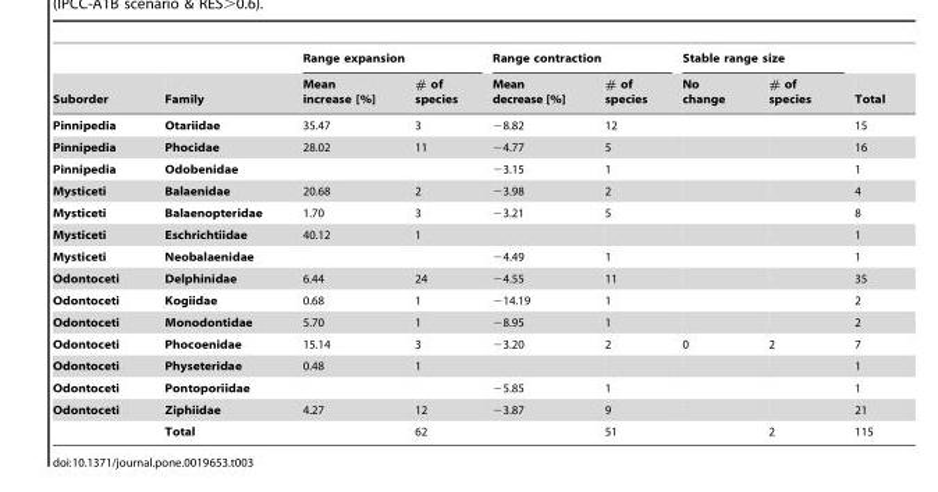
<table><thead><tr><td rowspan="2">Suborder</td><td rowspan="2">Family</td><td colspan="2">Range expansion</td><td colspan="2">Range contraction</td><td colspan="2">Stable range size</td><td rowspan="2">Total</td></tr><tr><td>Mean increase [%]</td><td># of species</td><td>Mean decrease [%]</td><td># of species</td><td>No change</td><td># of species</td></tr></thead><tbody><tr><td>Pinnipedia</td><td>Otariidae</td><td>35.47</td><td>3</td><td>−8.82</td><td>12</td><td></td><td></td><td>15</td></tr><tr><td>Pinnipedia</td><td>Phocidae</td><td>28.02</td><td>11</td><td>−4.77</td><td>5</td><td></td><td></td><td>16</td></tr><tr><td>Pinnipedia</td><td>Odobenidae</td><td></td><td></td><td>−3.15</td><td>1</td><td></td><td></td><td>1</td></tr><tr><td>Mysticeti</td><td>Balaenidae</td><td>20.68</td><td>2</td><td>−3.98</td><td>2</td><td></td><td></td><td>4</td></tr><tr><td>Mysticeti</td><td>Balaenopteridae</td><td>1.70</td><td>3</td><td>−3.21</td><td>5</td><td></td><td></td><td>8</td></tr><tr><td>Mysticeti</td><td>Eschrichtiidae</td><td>40.12</td><td>1</td><td></td><td></td><td></td><td></td><td>1</td></tr><tr><td>Mysticeti</td><td>Neobalaenidae</td><td></td><td></td><td>−4.49</td><td>1</td><td></td><td></td><td>1</td></tr><tr><td>Odontoceti</td><td>Delphinidae</td><td>6.44</td><td>24</td><td>−4.55</td><td>11</td><td></td><td></td><td>35</td></tr><tr><td>Odontoceti</td><td>Kogiidae</td><td>0.68</td><td>1</td><td>−14.19</td><td>1</td><td></td><td></td><td>2</td></tr><tr><td>Odontoceti</td><td>Monodontidae</td><td>5.70</td><td>1</td><td>−8.95</td><td>1</td><td></td><td></td><td>2</td></tr><tr><td>Odontoceti</td><td>Phocoenidae</td><td>15.14</td><td>3</td><td>−3.20</td><td>2</td><td>0</td><td>2</td><td>7</td></tr><tr><td>Odontoceti</td><td>Physeteridae</td><td>0.48</td><td>1</td><td></td><td></td><td></td><td></td><td>1</td></tr><tr><td>Odontoceti</td><td>Pontoporiidae</td><td></td><td></td><td>−5.85</td><td>1</td><td></td><td></td><td>1</td></tr><tr><td rowspan="2">Odontoceti</td><td>Ziphiidae</td><td>4.27</td><td>12</td><td>−3.87</td><td>9</td><td></td><td></td><td>21</td></tr><tr><td>Total</td><td></td><td>62</td><td></td><td>51</td><td></td><td>2</td><td>115</td></tr></tbody></table>